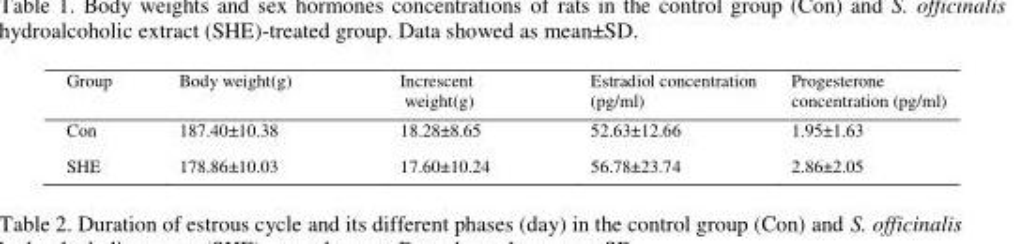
<table><thead><tr><td>Group</td><td>Body weight(g)</td><td>Increscent weight(g)</td><td>Estradiol concentration (pg/ml)</td><td>Progesterone concentration (pg/ml)</td></tr></thead><tbody><tr><td>Con</td><td>187.40±10.38</td><td>18.28±8.65</td><td>52.63±12.66</td><td>1.95±1.63</td></tr><tr><td>SHE</td><td>178.86±10.03</td><td>17.60±10.24</td><td>56.78±23.74</td><td>2.86±2.05</td></tr></tbody></table>